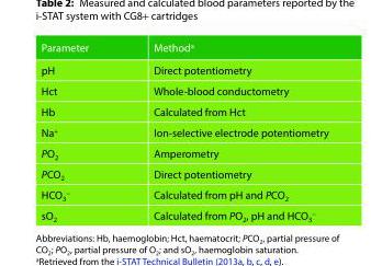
<table><thead><tr><td>Parameter</td><td>Method<sup>a</sup></td></tr></thead><tbody><tr><td>pH</td><td>Direct potentiometry</td></tr><tr><td>Hct</td><td>Whole-blood conductometry</td></tr><tr><td>Hb</td><td>Calculated from Hct</td></tr><tr><td>Na<sup>+</sup></td><td>Ion-selective electrode potentiometry</td></tr><tr><td>PO<sub>2</sub></td><td>Amperometry</td></tr><tr><td>PCO<sub>2</sub></td><td>Direct potentiometry</td></tr><tr><td>HCO<sub>3</sub><sup>−</sup></td><td>Calculated from pH and PCO<sub>2</sub></td></tr><tr><td>sO<sub>2</sub></td><td>Calculated from PO<sub>2</sub>, pH and HCO<sub>3</sub><sup>−</sup></td></tr></tbody></table>